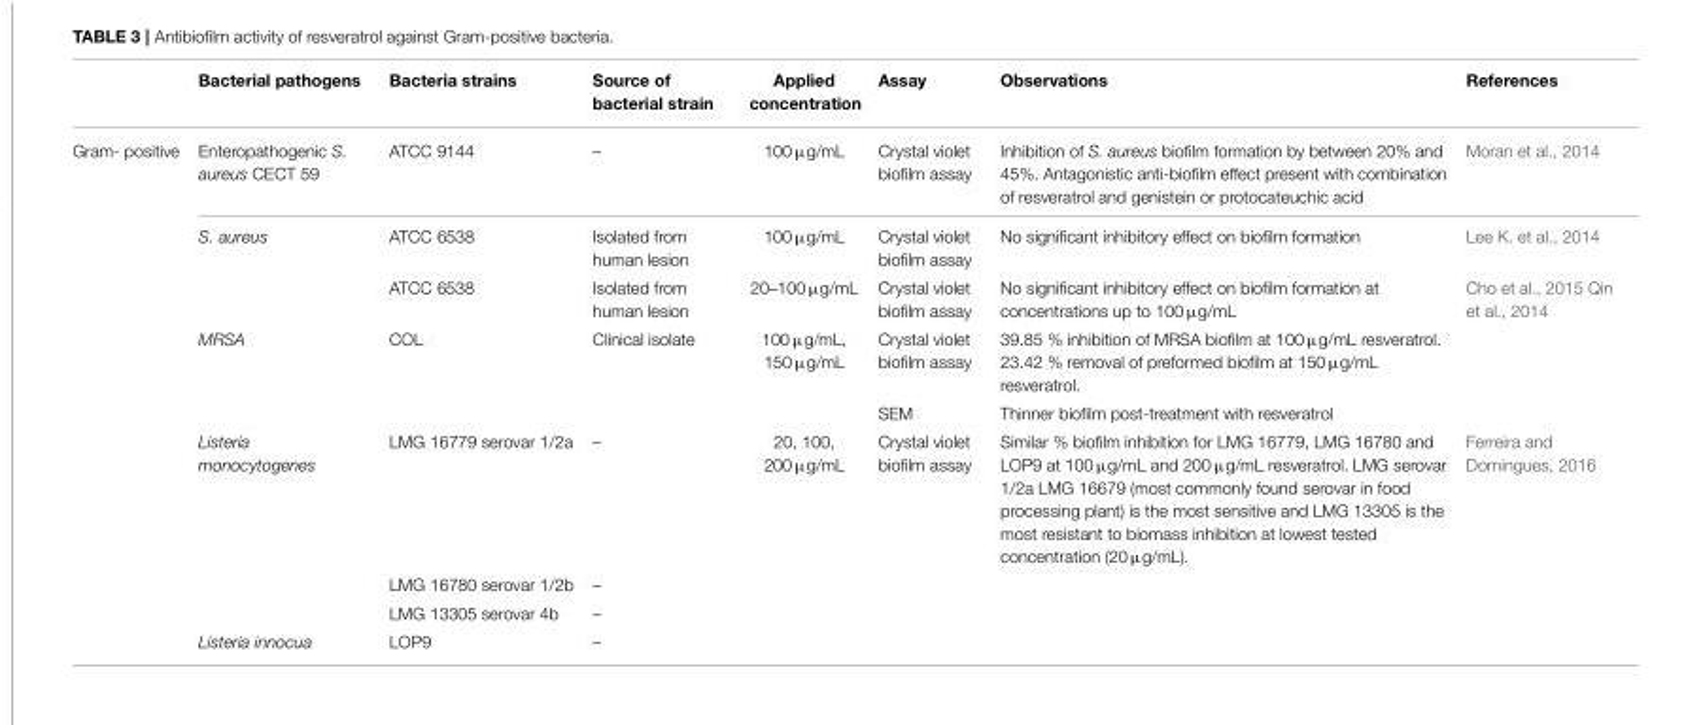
<table><thead><tr><td></td><td>Bacterial pathogens</td><td>Bacteria strains</td><td>Source of bacterial strain</td><td>Applied concentration</td><td>Assay</td><td>Observations</td><td>References</td></tr></thead><tbody><tr><td rowspan="9">Gram- positive</td><td>Enteropathogenic S. aureus CECT 59</td><td>ATCC 9144</td><td>–</td><td>100 µg/mL</td><td>Crystal violet biofilm assay</td><td>Inhibition of S. aureus biofilm formation by between 20% and 45%. Antagonistic anti-biofilm effect present with combination of resveratrol and genistein or protocateuchic acid</td><td>Moran et al., 2014</td></tr><tr><td>S. aureus</td><td>ATCC 6538</td><td>Isolated from human lesion</td><td>100 µg/mL</td><td>Crystal violet biofilm assay</td><td>No significant inhibitory effect on biofilm formation</td><td>Lee K. et al., 2014</td></tr><tr><td></td><td>ATCC 6538</td><td>Isolated from human lesion</td><td>20–100 µg/mL</td><td>Crystal violet biofilm assay</td><td>No significant inhibitory effect on biofilm formation at concentrations up to 100 µg/mL</td><td>Cho et al., 2015 Qin et al., 2014</td></tr><tr><td>MRSA</td><td>COL</td><td>Clinical isolate</td><td>100 µg/mL, 150 µg/mL</td><td>Crystal violet biofilm assay</td><td>39.85 % inhibition of MRSA biofilm at 100 µg/mL resveratrol. 23.42 % removal of preformed biofilm at 150 µg/mL resveratrol.</td><td></td></tr><tr><td></td><td></td><td></td><td></td><td>SEM</td><td>Thinner biofilm post-treatment with resveratrol</td><td></td></tr><tr><td>Listeria monocytogenes</td><td>LMG 16779 serovar 1/2a</td><td>–</td><td>20, 100, 200 µg/mL</td><td>Crystal violet biofilm assay</td><td>Similar % biofilm inhibition for LMG 16779, LMG 16780 and LOP9 at 100 µg/mL and 200 µg/mL resveratrol. LMG serovar 1/2a LMG 16679 (most commonly found serovar in food processing plant) is the most sensitive and LMG 13305 is the most resistant to biomass inhibition at lowest tested concentration (20 µg/mL).</td><td>Ferreira and Domingues, 2016</td></tr><tr><td></td><td>LMG 16780 serovar 1/2b</td><td>–</td><td></td><td></td><td></td><td></td></tr><tr><td></td><td>LMG 13305 serovar 4b</td><td>–</td><td></td><td></td><td></td><td></td></tr><tr><td>Listeria innocua</td><td>LOP9</td><td>–</td><td></td><td></td><td></td><td></td></tr></tbody></table>